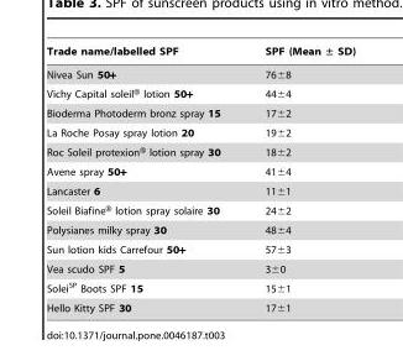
<table><thead><tr><td>Trade name/labelled SPF</td><td>SPF (Mean ± SD)</td></tr></thead><tbody><tr><td>Nivea Sun 50+</td><td>76±8</td></tr><tr><td>Vichy Capital soleil® lotion 50+</td><td>44±4</td></tr><tr><td>Bioderma Photoderm bronz spray 15</td><td>17±2</td></tr><tr><td>La Roche Posay spray lotion 20</td><td>19±2</td></tr><tr><td>Roc Soleil protexion® lotion spray 30</td><td>18±2</td></tr><tr><td>Avene spray 50+</td><td>41±4</td></tr><tr><td>Lancaster 6</td><td>11±1</td></tr><tr><td>Soleil Biafine® lotion spray solaire 30</td><td>24±2</td></tr><tr><td>Polysianes milky spray 30</td><td>48±4</td></tr><tr><td>Sun lotion kids Carrefour 50+</td><td>57±3</td></tr><tr><td>Vea scudo SPF 5</td><td>3±0</td></tr><tr><td>Solei<sup>SP</sup> Boots SPF 15</td><td>15±1</td></tr><tr><td>Hello Kitty SPF 30</td><td>17±1</td></tr></tbody></table>